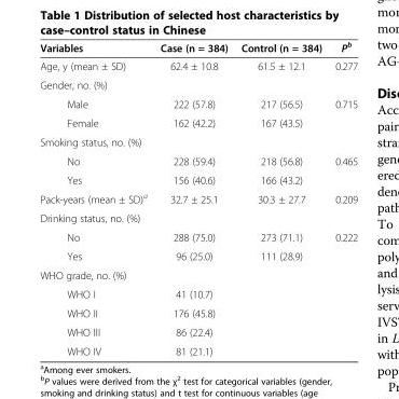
<table><thead><tr><td>Variables</td><td>Case (n = 384)</td><td>Control (n = 384)</td><td>P<sup>b</sup></td></tr></thead><tbody><tr><td>Age, y (mean ± SD)</td><td>62.4 ± 10.8</td><td>61.5 ± 12.1</td><td>0.277</td></tr><tr><td colspan="4">Gender, no. (%)</td></tr><tr><td>Male</td><td>222 (57.8)</td><td>217 (56.5)</td><td>0.715</td></tr><tr><td>Female</td><td>162 (42.2)</td><td>167 (43.5)</td><td></td></tr><tr><td colspan="4">Smoking status, no. (%)</td></tr><tr><td>No</td><td>228 (59.4)</td><td>218 (56.8)</td><td>0.465</td></tr><tr><td>Yes</td><td>156 (40.6)</td><td>166 (43.2)</td><td></td></tr><tr><td>Pack-years (mean ± SD)<sup>a</sup></td><td>32.7 ± 25.1</td><td>30.3 ± 27.7</td><td>0.209</td></tr><tr><td colspan="4">Drinking status, no. (%)</td></tr><tr><td>No</td><td>288 (75.0)</td><td>273 (71.1)</td><td>0.222</td></tr><tr><td>Yes</td><td>96 (25.0)</td><td>111 (28.9)</td><td></td></tr><tr><td colspan="4">WHO grade, no. (%)</td></tr><tr><td>WHO I</td><td>41 (10.7)</td><td></td><td></td></tr><tr><td>WHO II</td><td>176 (45.8)</td><td></td><td></td></tr><tr><td>WHO III</td><td>86 (22.4)</td><td></td><td></td></tr><tr><td>WHO IV</td><td>81 (21.1)</td><td></td><td></td></tr></tbody></table>